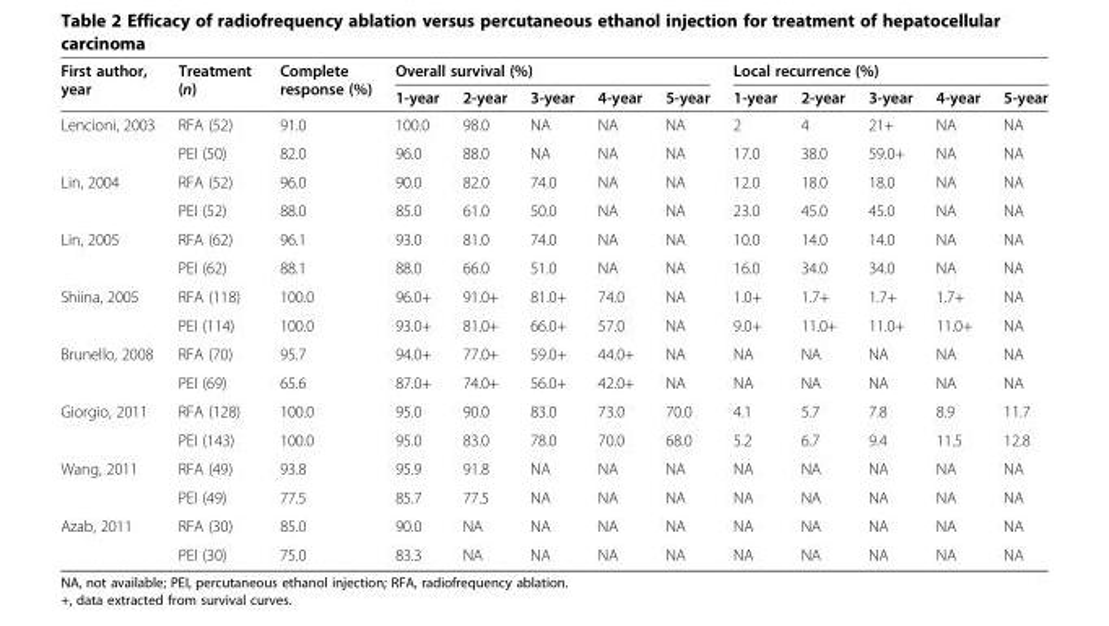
<table><thead><tr><td rowspan="2">First author, year</td><td rowspan="2">Treatment (n)</td><td rowspan="2">Complete response (%)</td><td colspan="5">Overall survival (%)</td><td colspan="5">Local recurrence (%)</td></tr><tr><td>1-year</td><td>2-year</td><td>3-year</td><td>4-year</td><td>5-year</td><td>1-year</td><td>2-year</td><td>3-year</td><td>4-year</td><td>5-year</td></tr></thead><tbody><tr><td rowspan="2">Lencioni, 2003</td><td>RFA (52)</td><td>91.0</td><td>100.0</td><td>98.0</td><td>NA</td><td>NA</td><td>NA</td><td>2</td><td>4</td><td>21+</td><td>NA</td><td>NA</td></tr><tr><td>PEI (50)</td><td>82.0</td><td>96.0</td><td>88.0</td><td>NA</td><td>NA</td><td>NA</td><td>17.0</td><td>38.0</td><td>59.0+</td><td>NA</td><td>NA</td></tr><tr><td rowspan="2">Lin, 2004</td><td>RFA (52)</td><td>96.0</td><td>90.0</td><td>82.0</td><td>74.0</td><td>NA</td><td>NA</td><td>12.0</td><td>18.0</td><td>18.0</td><td>NA</td><td>NA</td></tr><tr><td>PEI (52)</td><td>88.0</td><td>85.0</td><td>61.0</td><td>50.0</td><td>NA</td><td>NA</td><td>23.0</td><td>45.0</td><td>45.0</td><td>NA</td><td>NA</td></tr><tr><td rowspan="2">Lin, 2005</td><td>RFA (62)</td><td>96.1</td><td>93.0</td><td>81.0</td><td>74.0</td><td>NA</td><td>NA</td><td>10.0</td><td>14.0</td><td>14.0</td><td>NA</td><td>NA</td></tr><tr><td>PEI (62)</td><td>88.1</td><td>88.0</td><td>66.0</td><td>51.0</td><td>NA</td><td>NA</td><td>16.0</td><td>34.0</td><td>34.0</td><td>NA</td><td>NA</td></tr><tr><td rowspan="2">Shiina, 2005</td><td>RFA (118)</td><td>100.0</td><td>96.0+</td><td>91.0+</td><td>81.0+</td><td>74.0</td><td>NA</td><td>1.0+</td><td>1.7+</td><td>1.7+</td><td>1.7+</td><td>NA</td></tr><tr><td>PEI (114)</td><td>100.0</td><td>93.0+</td><td>81.0+</td><td>66.0+</td><td>57.0</td><td>NA</td><td>9.0+</td><td>11.0+</td><td>11.0+</td><td>11.0+</td><td>NA</td></tr><tr><td rowspan="2">Brunello, 2008</td><td>RFA (70)</td><td>95.7</td><td>94.0+</td><td>77.0+</td><td>59.0+</td><td>44.0+</td><td>NA</td><td>NA</td><td>NA</td><td>NA</td><td>NA</td><td>NA</td></tr><tr><td>PEI (69)</td><td>65.6</td><td>87.0+</td><td>74.0+</td><td>56.0+</td><td>42.0+</td><td>NA</td><td>NA</td><td>NA</td><td>NA</td><td>NA</td><td>NA</td></tr><tr><td rowspan="2">Giorgio, 2011</td><td>RFA (128)</td><td>100.0</td><td>95.0</td><td>90.0</td><td>83.0</td><td>73.0</td><td>70.0</td><td>4.1</td><td>5.7</td><td>7.8</td><td>8.9</td><td>11.7</td></tr><tr><td>PEI (143)</td><td>100.0</td><td>95.0</td><td>83.0</td><td>78.0</td><td>70.0</td><td>68.0</td><td>5.2</td><td>6.7</td><td>9.4</td><td>11.5</td><td>12.8</td></tr><tr><td rowspan="2">Wang, 2011</td><td>RFA (49)</td><td>93.8</td><td>95.9</td><td>91.8</td><td>NA</td><td>NA</td><td>NA</td><td>NA</td><td>NA</td><td>NA</td><td>NA</td><td>NA</td></tr><tr><td>PEI (49)</td><td>77.5</td><td>85.7</td><td>77.5</td><td>NA</td><td>NA</td><td>NA</td><td>NA</td><td>NA</td><td>NA</td><td>NA</td><td>NA</td></tr><tr><td rowspan="2">Azab, 2011</td><td>RFA (30)</td><td>85.0</td><td>90.0</td><td>NA</td><td>NA</td><td>NA</td><td>NA</td><td>NA</td><td>NA</td><td>NA</td><td>NA</td><td>NA</td></tr><tr><td>PEI (30)</td><td>75.0</td><td>83.3</td><td>NA</td><td>NA</td><td>NA</td><td>NA</td><td>NA</td><td>NA</td><td>NA</td><td>NA</td><td>NA</td></tr></tbody></table>